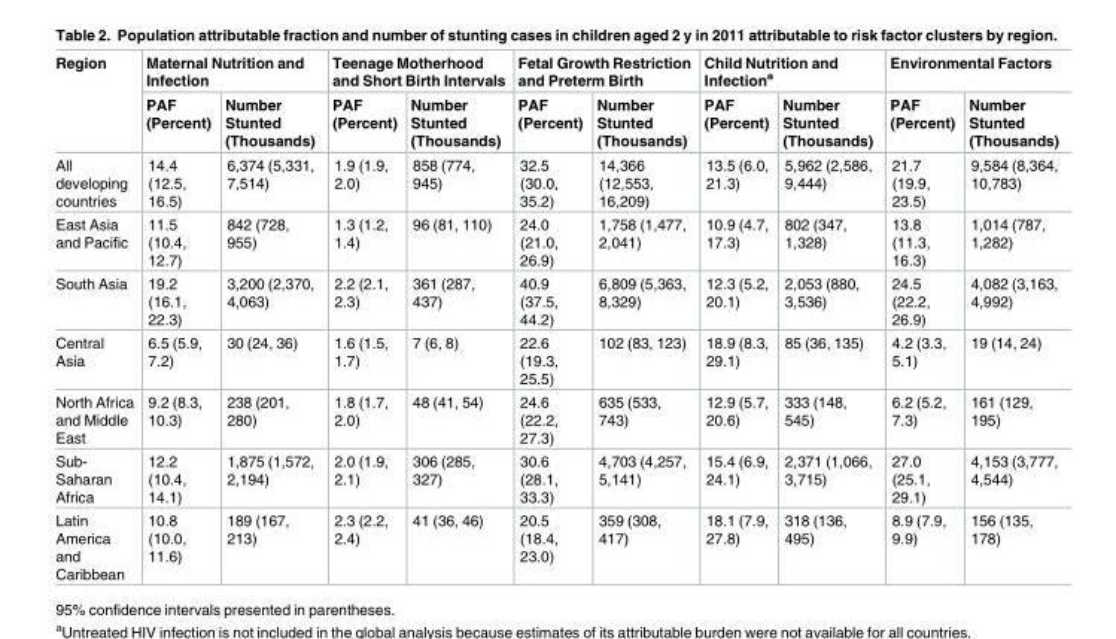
<table><thead><tr><td rowspan="2">Region</td><td colspan="2">Maternal Nutrition and Infection</td><td colspan="2">Teenage Motherhood and Short Birth Intervals</td><td colspan="2">Fetal Growth Restriction and Preterm Birth</td><td colspan="2">Child Nutrition and Infection<sup>a</sup></td><td colspan="2">Environmental Factors</td></tr><tr><td>PAF (Percent)</td><td>Number Stunted (Thousands)</td><td>PAF (Percent)</td><td>Number Stunted (Thousands)</td><td>PAF (Percent)</td><td>Number Stunted (Thousands)</td><td>PAF (Percent)</td><td>Number Stunted (Thousands)</td><td>PAF (Percent)</td><td>Number Stunted (Thousands)</td></tr></thead><tbody><tr><td>All developing countries</td><td>14.4 (12.5, 16.5)</td><td>6,374 (5,331, 7,514)</td><td>1.9 (1.9, 2.0)</td><td>858 (774, 945)</td><td>32.5 (30.0, 35.2)</td><td>14,366 (12,553, 16,209)</td><td>13.5 (6.0, 21.3)</td><td>5,962 (2,586, 9,444)</td><td>21.7 (19.9, 23.5)</td><td>9,584 (8,364, 10,783)</td></tr><tr><td>East Asia and Pacific</td><td>11.5 (10.4, 12.7)</td><td>842 (728, 955)</td><td>1.3 (1.2, 1.4)</td><td>96 (81, 110)</td><td>24.0 (21.0, 26.9)</td><td>1,758 (1,477, 2,041)</td><td>10.9 (4.7, 17.3)</td><td>802 (347, 1,328)</td><td>13.8 (11.3, 16.3)</td><td>1,014 (787, 1,282)</td></tr><tr><td>South Asia</td><td>19.2 (16.1, 22.3)</td><td>3,200 (2,370, 4,063)</td><td>2.2 (2.1, 2.3)</td><td>361 (287, 437)</td><td>40.9 (37.5, 44.2)</td><td>6,809 (5,363, 8,329)</td><td>12.3 (5.2, 20.1)</td><td>2,053 (880, 3,536)</td><td>24.5 (22.2, 26.9)</td><td>4,082 (3,163, 4,992)</td></tr><tr><td>Central Asia</td><td>6.5 (5.9, 7.2)</td><td>30 (24, 36)</td><td>1.6 (1.5, 1.7)</td><td>7 (6, 8)</td><td>22.6 (19.3, 25.5)</td><td>102 (83, 123)</td><td>18.9 (8.3, 29.1)</td><td>85 (36, 135)</td><td>4.2 (3.3, 5.1)</td><td>19 (14, 24)</td></tr><tr><td>North Africa and Middle East</td><td>9.2 (8.3, 10.3)</td><td>238 (201, 280)</td><td>1.8 (1.7, 2.0)</td><td>48 (41, 54)</td><td>24.6 (22.2, 27.3)</td><td>635 (533, 743)</td><td>12.9 (5.7, 20.6)</td><td>333 (148, 545)</td><td>6.2 (5.2, 7.3)</td><td>161 (129, 195)</td></tr><tr><td>Sub- Saharan Africa</td><td>12.2 (10.4, 14.1)</td><td>1,875 (1,572, 2,194)</td><td>2.0 (1.9, 2.1)</td><td>306 (285, 327)</td><td>30.6 (28.1, 33.3)</td><td>4,703 (4,257, 5,141)</td><td>15.4 (6.9, 24.1)</td><td>2,371 (1,066, 3,715)</td><td>27.0 (25.1, 29.1)</td><td>4,153 (3,777, 4,544)</td></tr><tr><td>Latin America and Caribbean</td><td>10.8 (10.0, 11.6)</td><td>189 (167, 213)</td><td>2.3 (2.2, 2.4)</td><td>41 (36, 46)</td><td>20.5 (18.4, 23.0)</td><td>359 (308, 417)</td><td>18.1 (7.9, 27.8)</td><td>318 (136, 495)</td><td>8.9 (7.9, 9.9)</td><td>156 (135, 178)</td></tr></tbody></table>